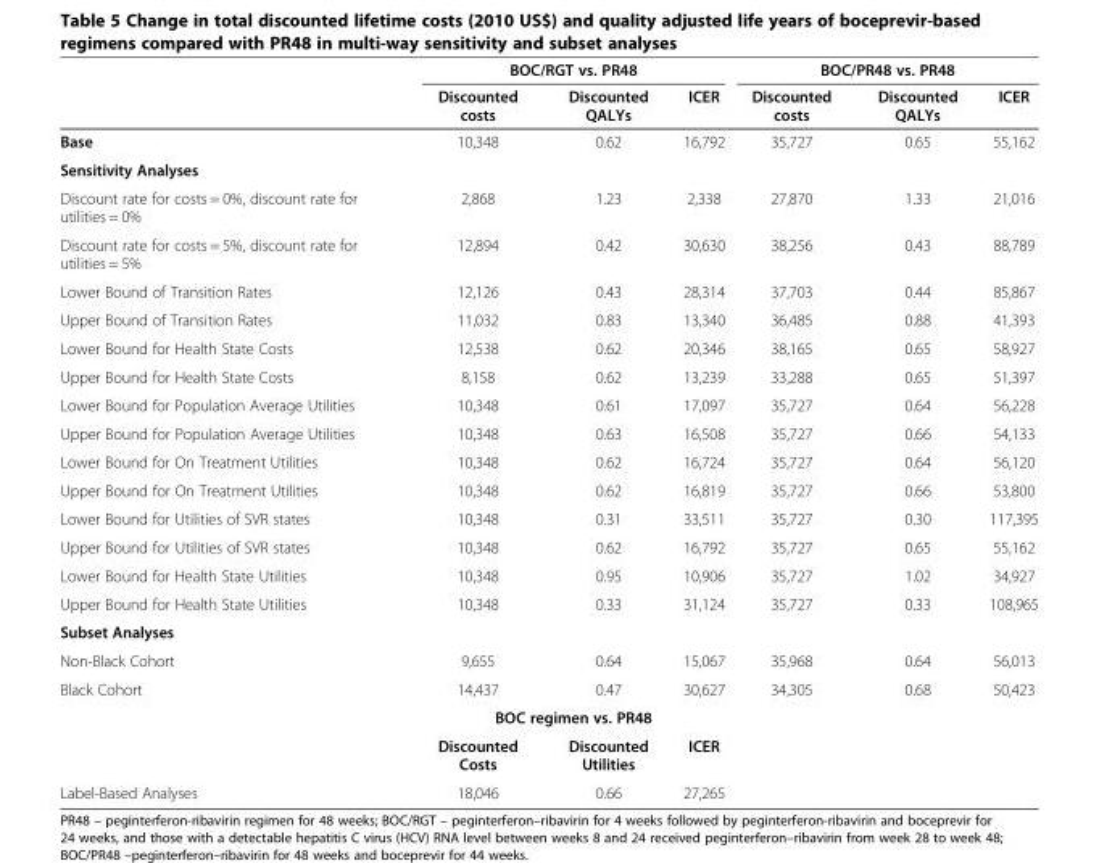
<table><thead><tr><td rowspan="2"></td><td colspan="3">BOC/RGT vs. PR48</td><td colspan="3">BOC/PR48 vs. PR48</td></tr><tr><td>Discounted costs</td><td>Discounted QALYs</td><td>ICER</td><td>Discounted costs</td><td>Discounted QALYs</td><td>ICER</td></tr></thead><tbody><tr><td>Base</td><td>10,348</td><td>0.62</td><td>16,792</td><td>35,727</td><td>0.65</td><td>55,162</td></tr><tr><td colspan="7">Sensitivity Analyses</td></tr><tr><td>Discount rate for costs = 0%, discount rate for utilities = 0%</td><td>2,868</td><td>1.23</td><td>2,338</td><td>27,870</td><td>1.33</td><td>21,016</td></tr><tr><td>Discount rate for costs = 5%, discount rate for utilities = 5%</td><td>12,894</td><td>0.42</td><td>30,630</td><td>38,256</td><td>0.43</td><td>88,789</td></tr><tr><td>Lower Bound of Transition Rates</td><td>12,126</td><td>0.43</td><td>28,314</td><td>37,703</td><td>0.44</td><td>85,867</td></tr><tr><td>Upper Bound of Transition Rates</td><td>11,032</td><td>0.83</td><td>13,340</td><td>36,485</td><td>0.88</td><td>41,393</td></tr><tr><td>Lower Bound for Health State Costs</td><td>12,538</td><td>0.62</td><td>20,346</td><td>38,165</td><td>0.65</td><td>58,927</td></tr><tr><td>Upper Bound for Health State Costs</td><td>8,158</td><td>0.62</td><td>13,239</td><td>33,288</td><td>0.65</td><td>51,397</td></tr><tr><td>Lower Bound for Population Average Utilities</td><td>10,348</td><td>0.61</td><td>17,097</td><td>35,727</td><td>0.64</td><td>56,228</td></tr><tr><td>Upper Bound for Population Average Utilities</td><td>10,348</td><td>0.63</td><td>16,508</td><td>35,727</td><td>0.66</td><td>54,133</td></tr><tr><td>Lower Bound for On Treatment Utilities</td><td>10,348</td><td>0.62</td><td>16,724</td><td>35,727</td><td>0.64</td><td>56,120</td></tr><tr><td>Upper Bound for On Treatment Utilities</td><td>10,348</td><td>0.62</td><td>16,819</td><td>35,727</td><td>0.66</td><td>53,800</td></tr><tr><td>Lower Bound for Utilities of SVR states</td><td>10,348</td><td>0.31</td><td>33,511</td><td>35,727</td><td>0.30</td><td>117,395</td></tr><tr><td>Upper Bound for Utilities of SVR states</td><td>10,348</td><td>0.62</td><td>16,792</td><td>35,727</td><td>0.65</td><td>55,162</td></tr><tr><td>Lower Bound for Health State Utilities</td><td>10,348</td><td>0.95</td><td>10,906</td><td>35,727</td><td>1.02</td><td>34,927</td></tr><tr><td>Upper Bound for Health State Utilities</td><td>10,348</td><td>0.33</td><td>31,124</td><td>35,727</td><td>0.33</td><td>108,965</td></tr><tr><td colspan="7">Subset Analyses</td></tr><tr><td>Non-Black Cohort</td><td>9,655</td><td>0.64</td><td>15,067</td><td>35,968</td><td>0.64</td><td>56,013</td></tr><tr><td rowspan="3">Black Cohort</td><td>14,437</td><td>0.47</td><td>30,627</td><td>34,305</td><td>0.68</td><td>50,423</td></tr><tr><td colspan="3">BOC regimen vs. PR48</td><td></td><td></td><td></td></tr><tr><td>Discounted Costs</td><td>Discounted Utilities</td><td>ICER</td><td></td><td></td><td></td></tr><tr><td>Label-Based Analyses</td><td>18,046</td><td>0.66</td><td>27,265</td><td></td><td></td><td></td></tr></tbody></table>